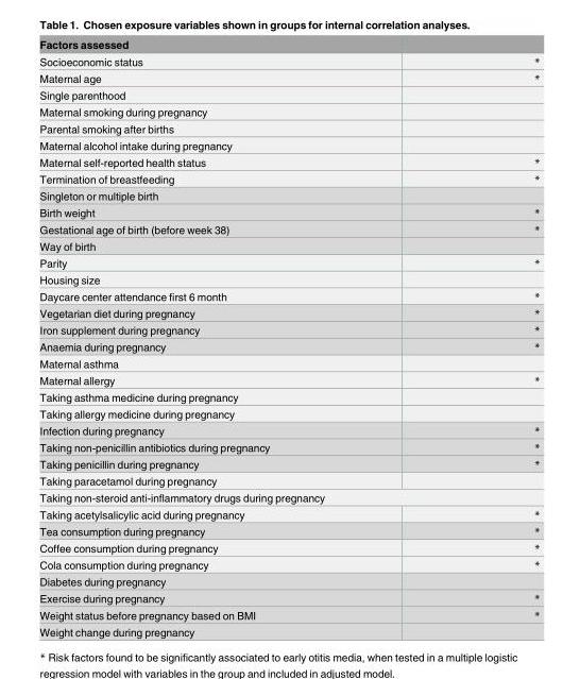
<table><thead><tr><td>Factors assessed</td><td></td></tr></thead><tbody><tr><td>Socioeconomic status</td><td>*</td></tr><tr><td>Maternal age</td><td>*</td></tr><tr><td colspan="2">Single parenthood</td></tr><tr><td colspan="2">Maternal smoking during pregnancy</td></tr><tr><td colspan="2">Parental smoking after births</td></tr><tr><td colspan="2">Maternal alcohol intake during pregnancy</td></tr><tr><td>Maternal self-reported health status</td><td>*</td></tr><tr><td>Termination of breastfeeding</td><td>*</td></tr><tr><td colspan="2">Singleton or multiple birth</td></tr><tr><td>Birth weight</td><td>*</td></tr><tr><td>Gestational age of birth (before week 38)</td><td>*</td></tr><tr><td colspan="2">Way of birth</td></tr><tr><td>Parity</td><td>*</td></tr><tr><td colspan="2">Housing size</td></tr><tr><td>Daycare center attendance first 6 month</td><td>*</td></tr><tr><td>Vegetarian diet during pregnancy</td><td>*</td></tr><tr><td>Iron supplement during pregnancy</td><td>*</td></tr><tr><td>Anaemia during pregnancy</td><td>*</td></tr><tr><td colspan="2">Maternal asthma</td></tr><tr><td>Maternal allergy</td><td>*</td></tr><tr><td colspan="2">Taking asthma medicine during pregnancy</td></tr><tr><td colspan="2">Taking allergy medicine during pregnancy</td></tr><tr><td>Infection during pregnancy</td><td>*</td></tr><tr><td>Taking non-penicillin antibiotics during pregnancy</td><td>*</td></tr><tr><td>Taking penicillin during pregnancy</td><td>*</td></tr><tr><td colspan="2">Taking paracetamol during pregnancy</td></tr><tr><td colspan="2">Taking non-steroid anti-inflammatory drugs during pregnancy</td></tr><tr><td>Taking acetylsalicylic acid during pregnancy</td><td>*</td></tr><tr><td>Tea consumption during pregnancy</td><td>*</td></tr><tr><td>Coffee consumption during pregnancy</td><td>*</td></tr><tr><td>Cola consumption during pregnancy</td><td>*</td></tr><tr><td colspan="2">Diabetes during pregnancy</td></tr><tr><td>Exercise during pregnancy</td><td>*</td></tr><tr><td>Weight status before pregnancy based on BMI</td><td>*</td></tr><tr><td>Weight change during pregnancy</td><td></td></tr></tbody></table>